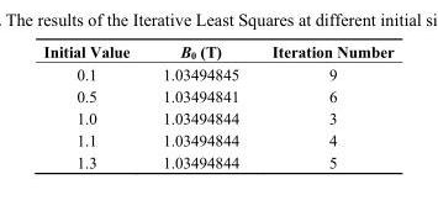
<table><thead><tr><td>Initial Value</td><td>B<sub>0</sub> (T)</td><td>Iteration Number</td></tr></thead><tbody><tr><td>0.1</td><td>1.03494845</td><td>9</td></tr><tr><td>0.5</td><td>1.03494841</td><td>6</td></tr><tr><td>1.0</td><td>1.03494844</td><td>3</td></tr><tr><td>1.1</td><td>1.03494844</td><td>4</td></tr><tr><td>1.3</td><td>1.03494844</td><td>5</td></tr></tbody></table>